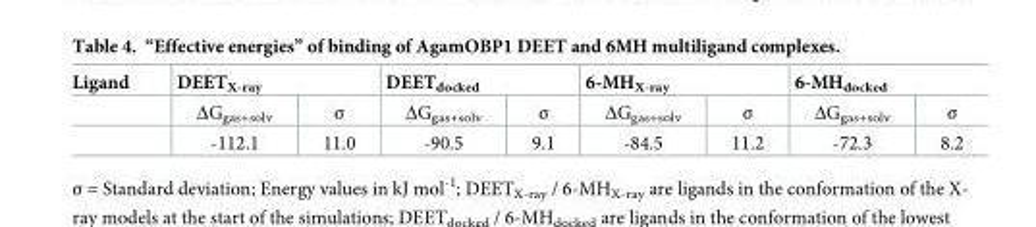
<table><thead><tr><td rowspan="2">Ligand</td><td colspan="2">DEET<sub>X-ray</sub></td><td colspan="2">DEET<sub>docked</sub></td><td colspan="2">6-MH<sub>X-ray</sub></td><td colspan="2">6-MH<sub>docked</sub></td></tr><tr><td>ΔG<sub>gas+solv</sub></td><td>σ</td><td>ΔG<sub>gas+solv</sub></td><td>σ</td><td>ΔG<sub>gas+solv</sub></td><td>σ</td><td>ΔG<sub>gas+solv</sub></td><td>σ</td></tr></thead><tbody><tr><td></td><td>-112.1</td><td>11.0</td><td>-90.5</td><td>9.1</td><td>-84.5</td><td>11.2</td><td>-72.3</td><td>8.2</td></tr></tbody></table>